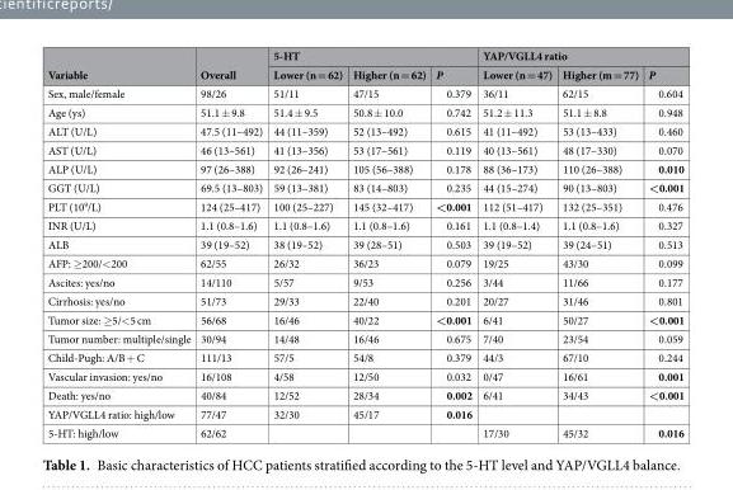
<table><thead><tr><td rowspan="2">Variable</td><td rowspan="2">Overall</td><td colspan="3">5-HT</td><td colspan="3">YAP/VGLL4 ratio</td></tr><tr><td>Lower (n = 62)</td><td>Higher (n = 62)</td><td>P</td><td>Lower (n = 47)</td><td>Higher (m = 77)</td><td>P</td></tr></thead><tbody><tr><td>Sex, male/female</td><td>98/26</td><td>51/11</td><td>47/15</td><td>0.379</td><td>36/11</td><td>62/15</td><td>0.604</td></tr><tr><td>Age (ys)</td><td>51.1 ± 9.8</td><td>51.4 ± 9.5</td><td>50.8 ± 10.0</td><td>0.742</td><td>51.2 ± 11.3</td><td>51.1 ± 8.8</td><td>0.948</td></tr><tr><td>ALT (U/L)</td><td>47.5 (11–492)</td><td>44 (11–359)</td><td>52 (13–492)</td><td>0.615</td><td>41 (11–492)</td><td>53 (13–433)</td><td>0.460</td></tr><tr><td>AST (U/L)</td><td>46 (13–561)</td><td>41 (13–356)</td><td>53 (17–561)</td><td>0.119</td><td>40 (13–561)</td><td>48 (17–330)</td><td>0.070</td></tr><tr><td>ALP (U/L)</td><td>97 (26–388)</td><td>92 (26–241)</td><td>105 (56–388)</td><td>0.178</td><td>88 (36–173)</td><td>110 (26–388)</td><td>0.010</td></tr><tr><td>GGT (U/L)</td><td>69.5 (13–803)</td><td>59 (13–381)</td><td>83 (14–803)</td><td>0.235</td><td>44 (15–274)</td><td>90 (13–803)</td><td>&lt;0.001</td></tr><tr><td>PLT (10<sup>9</sup>/L)</td><td>124 (25–417)</td><td>100 (25–227)</td><td>145 (32–417)</td><td>&lt;0.001</td><td>112 (51–417)</td><td>132 (25–351)</td><td>0.476</td></tr><tr><td>INR (U/L)</td><td>1.1 (0.8–1.6)</td><td>1.1 (0.8–1.6)</td><td>1.1 (0.8–1.6)</td><td>0.161</td><td>1.1 (0.8–1.4)</td><td>1.1 (0.8–1.6)</td><td>0.327</td></tr><tr><td>ALB</td><td>39 (19–52)</td><td>38 (19–52)</td><td>39 (28–51)</td><td>0.503</td><td>39 (19–52)</td><td>39 (24–51)</td><td>0.513</td></tr><tr><td>AFP: ≥200/&lt;200</td><td>62/55</td><td>26/32</td><td>36/23</td><td>0.079</td><td>19/25</td><td>43/30</td><td>0.099</td></tr><tr><td>Ascites: yes/no</td><td>14/110</td><td>5/57</td><td>9/53</td><td>0.256</td><td>3/44</td><td>11/66</td><td>0.177</td></tr><tr><td>Cirrhosis: yes/no</td><td>51/73</td><td>29/33</td><td>22/40</td><td>0.201</td><td>20/27</td><td>31/46</td><td>0.801</td></tr><tr><td>Tumor size: ≥5/&lt;5 cm</td><td>56/68</td><td>16/46</td><td>40/22</td><td>&lt;0.001</td><td>6/41</td><td>50/27</td><td>&lt;0.001</td></tr><tr><td>Tumor number: multiple/single</td><td>30/94</td><td>14/48</td><td>16/46</td><td>0.675</td><td>7/40</td><td>23/54</td><td>0.059</td></tr><tr><td>Child-Pugh: A/B + C</td><td>111/13</td><td>57/5</td><td>54/8</td><td>0.379</td><td>44/3</td><td>67/10</td><td>0.244</td></tr><tr><td>Vascular invasion: yes/no</td><td>16/108</td><td>4/58</td><td>12/50</td><td>0.032</td><td>0/47</td><td>16/61</td><td>0.001</td></tr><tr><td>Death: yes/no</td><td>40/84</td><td>12/52</td><td>28/34</td><td>0.002</td><td>6/41</td><td>34/43</td><td>&lt;0.001</td></tr><tr><td>YAP/VGLL4 ratio: high/low</td><td>77/47</td><td>32/30</td><td>45/17</td><td>0.016</td><td></td><td></td><td></td></tr><tr><td>5-HT: high/low</td><td>62/62</td><td></td><td></td><td></td><td>17/30</td><td>45/32</td><td>0.016</td></tr></tbody></table>